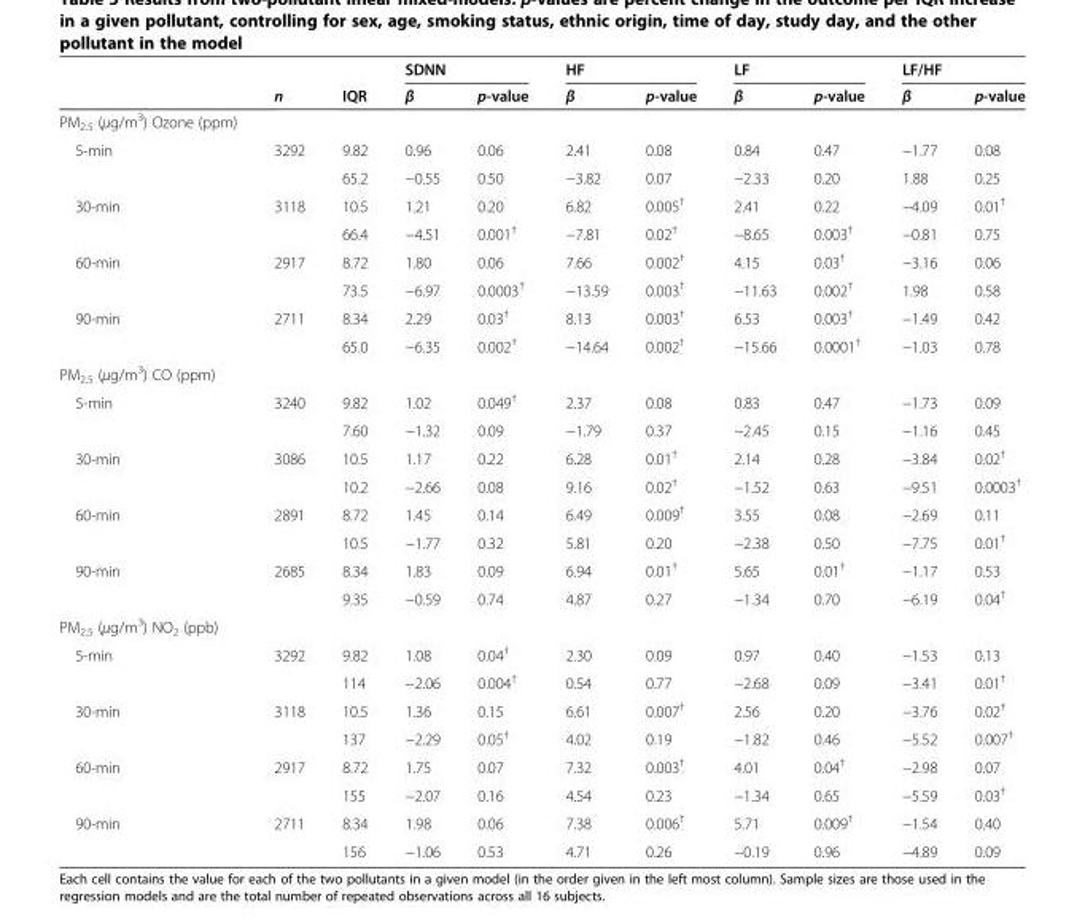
<table><thead><tr><td rowspan="2"></td><td rowspan="2">n</td><td rowspan="2">IQR</td><td colspan="2">SDNN</td><td colspan="2">HF</td><td colspan="2">LF</td><td colspan="2">LF/HF</td></tr><tr><td>β</td><td>p-value</td><td>β</td><td>p-value</td><td>β</td><td>p-value</td><td>β</td><td>p-value</td></tr></thead><tbody><tr><td colspan="11">PM<sub>2.5</sub> (μg/m<sup>3</sup>) Ozone (ppm)</td></tr><tr><td rowspan="2">5-min</td><td rowspan="2">3292</td><td>9.82</td><td>0.96</td><td>0.06</td><td>2.41</td><td>0.08</td><td>0.84</td><td>0.47</td><td>−1.77</td><td>0.08</td></tr><tr><td>65.2</td><td>−0.55</td><td>0.50</td><td>−3.82</td><td>0.07</td><td>−2.33</td><td>0.20</td><td>1.88</td><td>0.25</td></tr><tr><td rowspan="2">30-min</td><td rowspan="2">3118</td><td>10.5</td><td>1.21</td><td>0.20</td><td>6.82</td><td>0.005<sup>†</sup></td><td>2.41</td><td>0.22</td><td>−4.09</td><td>0.01<sup>†</sup></td></tr><tr><td>66.4</td><td>−4.51</td><td>0.001<sup>†</sup></td><td>−7.81</td><td>0.02<sup>†</sup></td><td>−8.65</td><td>0.003<sup>†</sup></td><td>−0.81</td><td>0.75</td></tr><tr><td rowspan="2">60-min</td><td rowspan="2">2917</td><td>8.72</td><td>1.80</td><td>0.06</td><td>7.66</td><td>0.002<sup>†</sup></td><td>4.15</td><td>0.03<sup>†</sup></td><td>−3.16</td><td>0.06</td></tr><tr><td>73.5</td><td>−6.97</td><td>0.0003<sup>†</sup></td><td>−13.59</td><td>0.003<sup>†</sup></td><td>−11.63</td><td>0.002<sup>†</sup></td><td>1.98</td><td>0.58</td></tr><tr><td rowspan="2">90-min</td><td rowspan="2">2711</td><td>8.34</td><td>2.29</td><td>0.03<sup>†</sup></td><td>8.13</td><td>0.003<sup>†</sup></td><td>6.53</td><td>0.003<sup>†</sup></td><td>−1.49</td><td>0.42</td></tr><tr><td>65.0</td><td>−6.35</td><td>0.002<sup>†</sup></td><td>−14.64</td><td>0.002<sup>†</sup></td><td>−15.66</td><td>0.0001<sup>†</sup></td><td>−1.03</td><td>0.78</td></tr><tr><td colspan="11">PM<sub>2.5</sub> (μg/m<sup>3</sup>) CO (ppm)</td></tr><tr><td rowspan="2">5-min</td><td rowspan="2">3240</td><td>9.82</td><td>1.02</td><td>0.049<sup>†</sup></td><td>2.37</td><td>0.08</td><td>0.83</td><td>0.47</td><td>−1.73</td><td>0.09</td></tr><tr><td>7.60</td><td>−1.32</td><td>0.09</td><td>−1.79</td><td>0.37</td><td>−2.45</td><td>0.15</td><td>−1.16</td><td>0.45</td></tr><tr><td rowspan="2">30-min</td><td rowspan="2">3086</td><td>10.5</td><td>1.17</td><td>0.22</td><td>6.28</td><td>0.01<sup>†</sup></td><td>2.14</td><td>0.28</td><td>−3.84</td><td>0.02<sup>†</sup></td></tr><tr><td>10.2</td><td>−2.66</td><td>0.08</td><td>9.16</td><td>0.02<sup>†</sup></td><td>−1.52</td><td>0.63</td><td>−9.51</td><td>0.0003<sup>†</sup></td></tr><tr><td rowspan="2">60-min</td><td rowspan="2">2891</td><td>8.72</td><td>1.45</td><td>0.14</td><td>6.49</td><td>0.009<sup>†</sup></td><td>3.55</td><td>0.08</td><td>−2.69</td><td>0.11</td></tr><tr><td>10.5</td><td>−1.77</td><td>0.32</td><td>5.81</td><td>0.20</td><td>−2.38</td><td>0.50</td><td>−7.75</td><td>0.01<sup>†</sup></td></tr><tr><td rowspan="2">90-min</td><td rowspan="2">2685</td><td>8.34</td><td>1.83</td><td>0.09</td><td>6.94</td><td>0.01<sup>†</sup></td><td>5.65</td><td>0.01<sup>†</sup></td><td>−1.17</td><td>0.53</td></tr><tr><td>9.35</td><td>−0.59</td><td>0.74</td><td>4.87</td><td>0.27</td><td>−1.34</td><td>0.70</td><td>−6.19</td><td>0.04<sup>†</sup></td></tr><tr><td colspan="11">PM<sub>2.5</sub> (μg/m<sup>3</sup>) NO<sub>2</sub> (ppb)</td></tr><tr><td rowspan="2">5-min</td><td rowspan="2">3292</td><td>9.82</td><td>1.08</td><td>0.04<sup>†</sup></td><td>2.30</td><td>0.09</td><td>0.97</td><td>0.40</td><td>−1.53</td><td>0.13</td></tr><tr><td>114</td><td>−2.06</td><td>0.004<sup>†</sup></td><td>0.54</td><td>0.77</td><td>−2.68</td><td>0.09</td><td>−3.41</td><td>0.01<sup>†</sup></td></tr><tr><td rowspan="2">30-min</td><td rowspan="2">3118</td><td>10.5</td><td>1.36</td><td>0.15</td><td>6.61</td><td>0.007<sup>†</sup></td><td>2.56</td><td>0.20</td><td>−3.76</td><td>0.02<sup>†</sup></td></tr><tr><td>137</td><td>−2.29</td><td>0.05<sup>†</sup></td><td>4.02</td><td>0.19</td><td>−1.82</td><td>0.46</td><td>−5.52</td><td>0.007<sup>†</sup></td></tr><tr><td rowspan="2">60-min</td><td rowspan="2">2917</td><td>8.72</td><td>1.75</td><td>0.07</td><td>7.32</td><td>0.003<sup>†</sup></td><td>4.01</td><td>0.04<sup>†</sup></td><td>−2.98</td><td>0.07</td></tr><tr><td>155</td><td>−2.07</td><td>0.16</td><td>4.54</td><td>0.23</td><td>−1.34</td><td>0.65</td><td>−5.59</td><td>0.03<sup>†</sup></td></tr><tr><td rowspan="2">90-min</td><td rowspan="2">2711</td><td>8.34</td><td>1.98</td><td>0.06</td><td>7.38</td><td>0.006<sup>†</sup></td><td>5.71</td><td>0.009<sup>†</sup></td><td>−1.54</td><td>0.40</td></tr><tr><td>156</td><td>−1.06</td><td>0.53</td><td>4.71</td><td>0.26</td><td>−0.19</td><td>0.96</td><td>−4.89</td><td>0.09</td></tr></tbody></table>